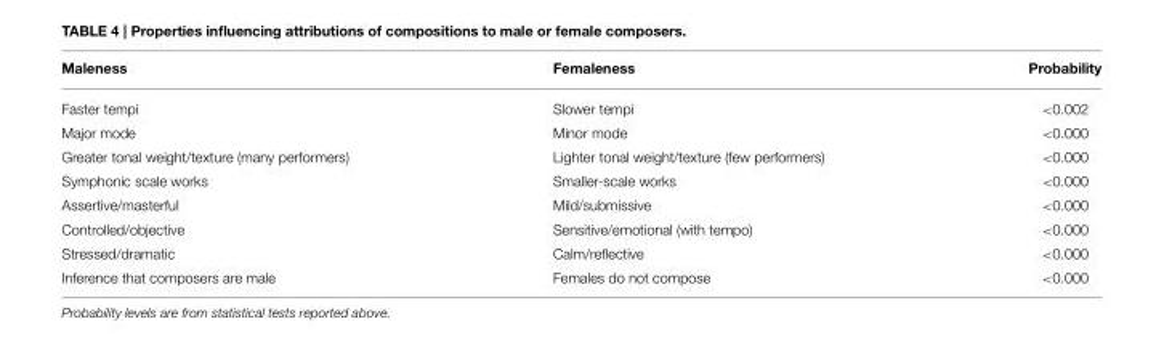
<table><thead><tr><td>Maleness</td><td>Femaleness</td><td>Probability</td></tr></thead><tbody><tr><td>Faster tempi</td><td>Slower tempi</td><td>&lt;0.002</td></tr><tr><td>Major mode</td><td>Minor mode</td><td>&lt;0.000</td></tr><tr><td>Greater tonal weight/texture (many performers)</td><td>Lighter tonal weight/texture (few performers)</td><td>&lt;0.000</td></tr><tr><td>Symphonic scale works</td><td>Smaller-scale works</td><td>&lt;0.000</td></tr><tr><td>Assertive/masterful</td><td>Mild/submissive</td><td>&lt;0.000</td></tr><tr><td>Controlled/objective</td><td>Sensitive/emotional (with tempo)</td><td>&lt;0.000</td></tr><tr><td>Stressed/dramatic</td><td>Calm/reflective</td><td>&lt;0.000</td></tr><tr><td>Inference that composers are male</td><td>Females do not compose</td><td>&lt;0.000</td></tr></tbody></table>